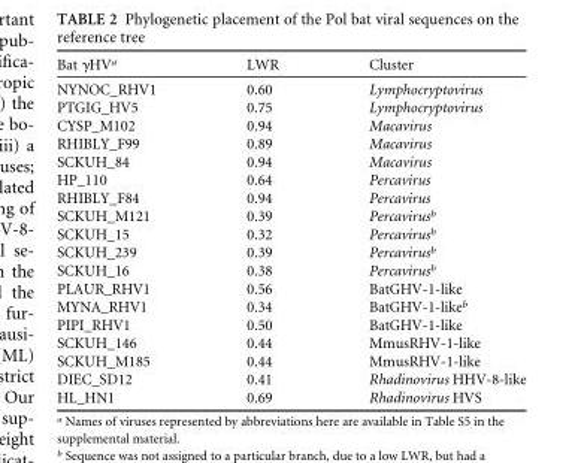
<table><thead><tr><td>Bat γHV<sup>a</sup></td><td>LWR</td><td>Cluster</td></tr></thead><tbody><tr><td>NYNOC_RHV1</td><td>0.60</td><td>Lymphocryptovirus</td></tr><tr><td>PTGIG_HV5</td><td>0.75</td><td>Lymphocryptovirus</td></tr><tr><td>CYSP_M102</td><td>0.94</td><td>Macavirus</td></tr><tr><td>RHIBLY_F99</td><td>0.89</td><td>Macavirus</td></tr><tr><td>SCKUH_84</td><td>0.94</td><td>Macavirus</td></tr><tr><td>HP_110</td><td>0.64</td><td>Percavirus</td></tr><tr><td>RHIBLY_F84</td><td>0.94</td><td>Percavirus</td></tr><tr><td>SCKUH_M121</td><td>0.39</td><td>Percavirus<sup>b</sup></td></tr><tr><td>SCKUH_15</td><td>0.32</td><td>Percavirus<sup>b</sup></td></tr><tr><td>SCKUH_239</td><td>0.39</td><td>Percavirus<sup>b</sup></td></tr><tr><td>SCKUH_16</td><td>0.38</td><td>Percavirus<sup>b</sup></td></tr><tr><td>PLAUR_RHV1</td><td>0.56</td><td>BatGHV-1-like</td></tr><tr><td>MYNA_RHV1</td><td>0.34</td><td>BatGHV-1-like<sup>b</sup></td></tr><tr><td>PIPI_RHV1</td><td>0.50</td><td>BatGHV-1-like</td></tr><tr><td>SCKUH_146</td><td>0.44</td><td>MmusRHV-1-like</td></tr><tr><td>SCKUH_M185</td><td>0.44</td><td>MmusRHV-1-like</td></tr><tr><td>DIEC_SD12</td><td>0.41</td><td>Rhadinovirus HHV-8-like</td></tr><tr><td>HL_HN1</td><td>0.69</td><td>Rhadinovirus HVS</td></tr></tbody></table>